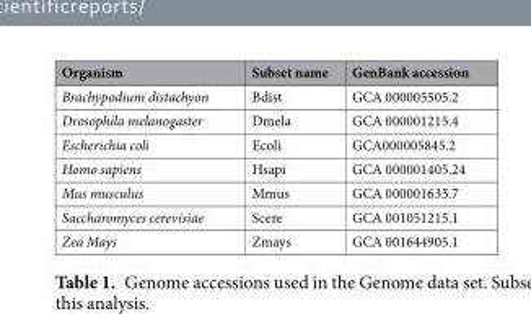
<table><thead><tr><td>Organism</td><td>Subset name</td><td>GenBank accession</td></tr></thead><tbody><tr><td>Brachypodium distachyon</td><td>Bdist</td><td>GCA 000005505.2</td></tr><tr><td>Drosophila melanogaster</td><td>Dmela</td><td>GCA 000001215.4</td></tr><tr><td>Escherichia coli</td><td>Ecoli</td><td>GCA000005845.2</td></tr><tr><td>Homo sapiens</td><td>Hsapi</td><td>GCA 000001405.24</td></tr><tr><td>Mus musculus</td><td>Mmus</td><td>GCA 000001635.7</td></tr><tr><td>Saccharomyces cerevisiae</td><td>Scere</td><td>GCA 001051215.1</td></tr><tr><td>Zea Mays</td><td>Zmays</td><td>GCA 001644905.1</td></tr></tbody></table>